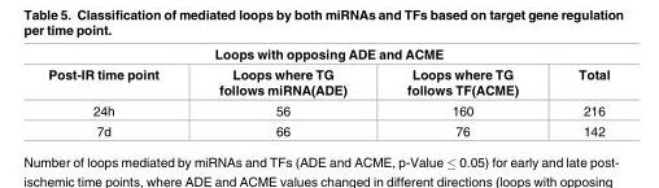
<table><thead><tr><td colspan="4">Loops with opposing ADE and ACME</td></tr><tr><td>Post-IR time point</td><td>Loops where TG follows miRNA(ADE)</td><td>Loops where TG follows TF(ACME)</td><td>Total</td></tr></thead><tbody><tr><td>24h</td><td>56</td><td>160</td><td>216</td></tr><tr><td>7d</td><td>66</td><td>76</td><td>142</td></tr></tbody></table>